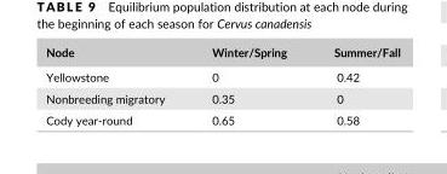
<table><thead><tr><td>Node</td><td>Winter/Spring</td><td>Summer/Fall</td></tr></thead><tbody><tr><td>Yellowstone</td><td>0</td><td>0.42</td></tr><tr><td>Nonbreeding migratory</td><td>0.35</td><td>0</td></tr><tr><td>Cody year- round</td><td>0.65</td><td>0.58</td></tr></tbody></table>